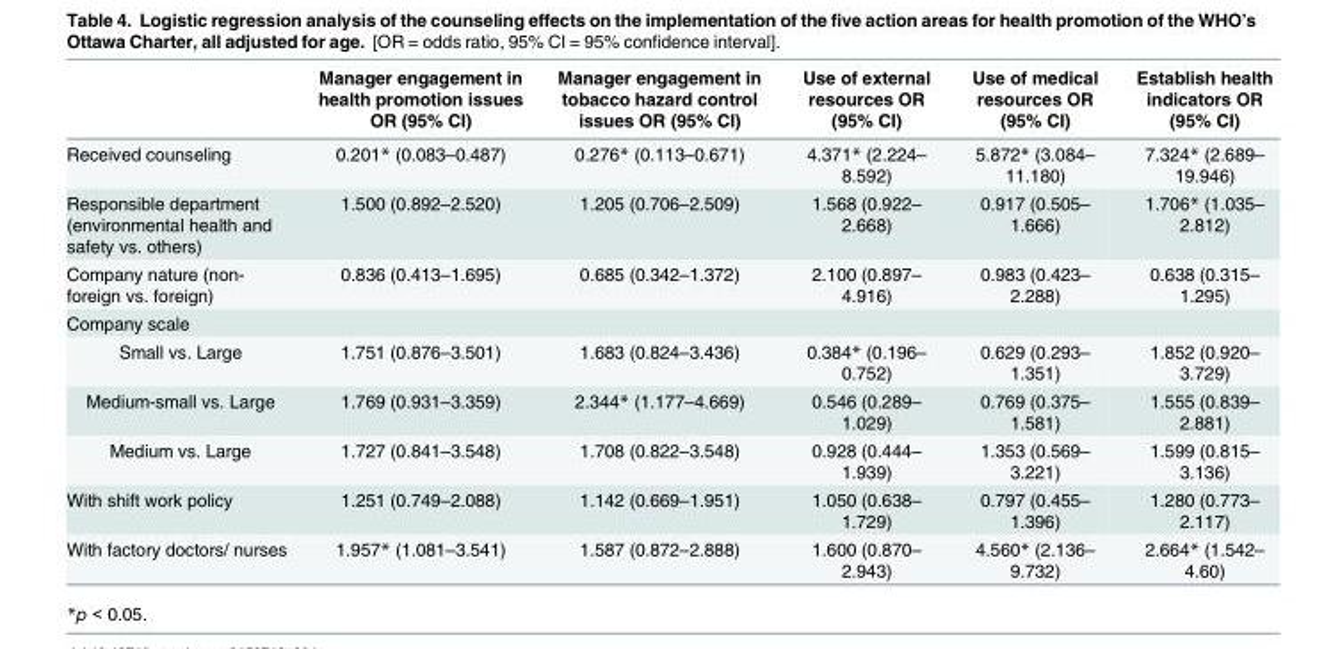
<table><thead><tr><td></td><td>Manager engagement in health promotion issues OR (95% CI)</td><td>Manager engagement in tobacco hazard control issues OR (95% CI)</td><td>Use of external resources OR (95% CI)</td><td>Use of medical resources OR (95% CI)</td><td>Establish health indicators OR (95% CI)</td></tr></thead><tbody><tr><td>Received counseling</td><td>0.201* (0.083–0.487)</td><td>0.276* (0.113–0.671)</td><td>4.371* (2.224– 8.592)</td><td>5.872* (3.084– 11.180)</td><td>7.324* (2.689– 19.946)</td></tr><tr><td>Responsible department (environmental health and safety vs. others)</td><td>1.500 (0.892–2.520)</td><td>1.205 (0.706–2.509)</td><td>1.568 (0.922– 2.668)</td><td>0.917 (0.505– 1.666)</td><td>1.706* (1.035– 2.812)</td></tr><tr><td>Company nature (non- foreign vs. foreign)</td><td>0.836 (0.413–1.695)</td><td>0.685 (0.342–1.372)</td><td>2.100 (0.897– 4.916)</td><td>0.983 (0.423– 2.288)</td><td>0.638 (0.315– 1.295)</td></tr><tr><td colspan="6">Company scale</td></tr><tr><td>Small vs. Large</td><td>1.751 (0.876–3.501)</td><td>1.683 (0.824–3.436)</td><td>0.384* (0.196– 0.752)</td><td>0.629 (0.293– 1.351)</td><td>1.852 (0.920– 3.729)</td></tr><tr><td>Medium-small vs. Large</td><td>1.769 (0.931–3.359)</td><td>2.344* (1.177–4.669)</td><td>0.546 (0.289– 1.029)</td><td>0.769 (0.375– 1.581)</td><td>1.555 (0.839– 2.881)</td></tr><tr><td>Medium vs. Large</td><td>1.727 (0.841–3.548)</td><td>1.708 (0.822–3.548)</td><td>0.928 (0.444– 1.939)</td><td>1.353 (0.569– 3.221)</td><td>1.599 (0.815– 3.136)</td></tr><tr><td>With shift work policy</td><td>1.251 (0.749–2.088)</td><td>1.142 (0.669–1.951)</td><td>1.050 (0.638– 1.729)</td><td>0.797 (0.455– 1.396)</td><td>1.280 (0.773– 2.117)</td></tr><tr><td>With factory doctors/ nurses</td><td>1.957* (1.081–3.541)</td><td>1.587 (0.872–2.888)</td><td>1.600 (0.870– 2.943)</td><td>4.560* (2.136– 9.732)</td><td>2.664* (1.542– 4.60)</td></tr></tbody></table>